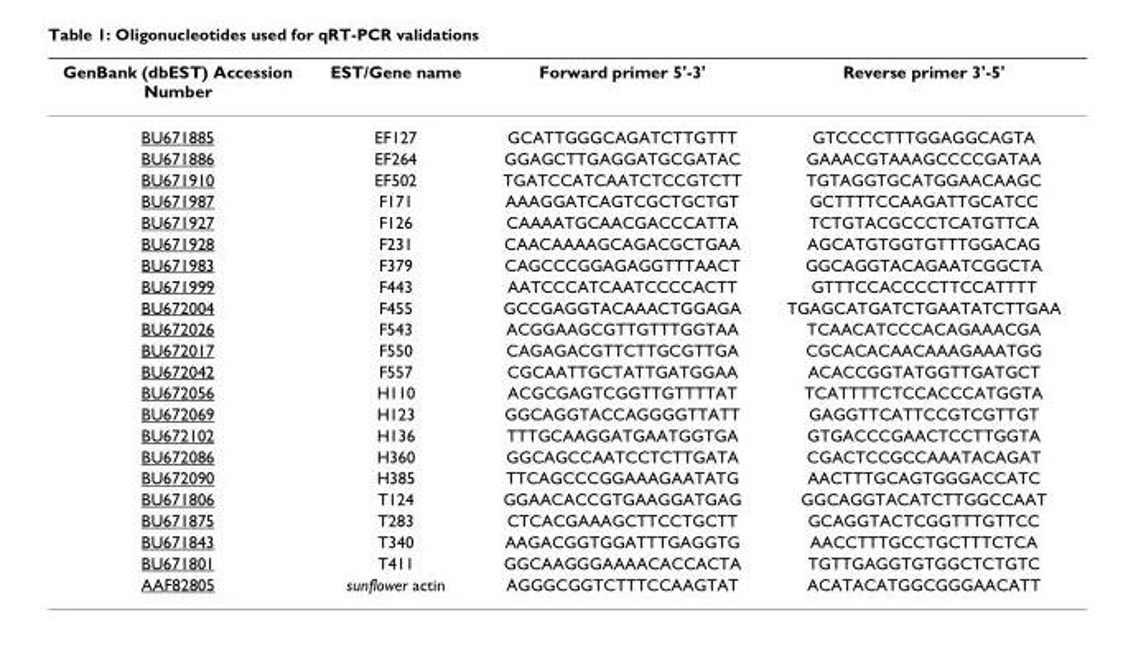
<table><thead><tr><td>GenBank (dbEST) Accession Number</td><td>EST/Gene name</td><td>Forward primer 5&#x27;-3&#x27;</td><td>Reverse primer 3&#x27;-5&#x27;</td></tr></thead><tbody><tr><td>BU671885</td><td>EF127</td><td>GCATTGGGCAGATCTTGTTT</td><td>GTCCCCTTTGGAGGCAGTA</td></tr><tr><td>BU671886</td><td>EF264</td><td>GGAGCTTGAGGATGCGATAC</td><td>GAAACGTAAAGCCCCGATAA</td></tr><tr><td>BU671910</td><td>EF502</td><td>TGATCCATCAATCTCCGTCTT</td><td>TGTAGGTGCATGGAACAAGC</td></tr><tr><td>BU671987</td><td>F171</td><td>AAAGGATCAGTCGCTGCTGT</td><td>GCTTTTCCAAGATTGCATCC</td></tr><tr><td>BU671927</td><td>F126</td><td>CAAAATGCAACGACCCATTA</td><td>TCTGTACGCCCTCATGTTCA</td></tr><tr><td>BU671928</td><td>F231</td><td>CAACAAAAGCAGACGCTGAA</td><td>AGCATGTGGTGTTTGGACAG</td></tr><tr><td>BU671983</td><td>F379</td><td>CAGCCCGGAGAGGTTTAACT</td><td>GGCAGGTACAGAATCGGCTA</td></tr><tr><td>BU671999</td><td>F443</td><td>AATCCCATCAATCCCCACTT</td><td>GTTTCCACCCCTTCCATTTT</td></tr><tr><td>BU672004</td><td>F455</td><td>GCCGAGGTACAAACTGGAGA</td><td>TGAGCATGATCTGAATATCTTGAA</td></tr><tr><td>BU672026</td><td>F543</td><td>ACGGAAGCGTTGTTTGGTAA</td><td>TCAACATCCCACAGAAACGA</td></tr><tr><td>BU672017</td><td>F550</td><td>CAGAGACGTTCTTGCGTTGA</td><td>CGCACACAACAAAGAAATGG</td></tr><tr><td>BU672042</td><td>F557</td><td>CGCAATTGCTATTGATGGAA</td><td>ACACCGGTATGGTTGATGCT</td></tr><tr><td>BU672056</td><td>H110</td><td>ACGCGAGTCGGTTGTTTTAT</td><td>TCATTTTCTCCACCCATGGTA</td></tr><tr><td>BU672069</td><td>H123</td><td>GGCAGGTACCAGGGGTTATT</td><td>GAGGTTCATTCCGTCGTTGT</td></tr><tr><td>BU672102</td><td>H136</td><td>TTTGCAAGGATGAATGGTGA</td><td>GTGACCCGAACTCCTTGGTA</td></tr><tr><td>BU672086</td><td>H360</td><td>GGCAGCCAATCCTCTTGATA</td><td>CGACTCCGCCAAATACAGAT</td></tr><tr><td>BU672090</td><td>H385</td><td>TTCAGCCCGGAAAGAATATG</td><td>AACTTTGCAGTGGGACCATC</td></tr><tr><td>BU671806</td><td>T124</td><td>GGAACACCGTGAAGGATGAG</td><td>GGCAGGTACATCTTGGCCAAT</td></tr><tr><td>BU671875</td><td>T283</td><td>CTCACGAAAGCTTCCTGCTT</td><td>GCAGGTACTCGGTTTGTTCC</td></tr><tr><td>BU671843</td><td>T340</td><td>AAGACGGTGGATTTGAGGTG</td><td>AACCTTTGCCTGCTTTCTCA</td></tr><tr><td>BU671801</td><td>T411</td><td>GGCAAGGGAAAACACCACTA</td><td>TGTTGAGGTGTGGCTCTGTC</td></tr><tr><td>AAF82805</td><td>sunflower actin</td><td>AGGGCGGTCTTTCCAAGTAT</td><td>ACATACATGGCGGGAACATT</td></tr></tbody></table>